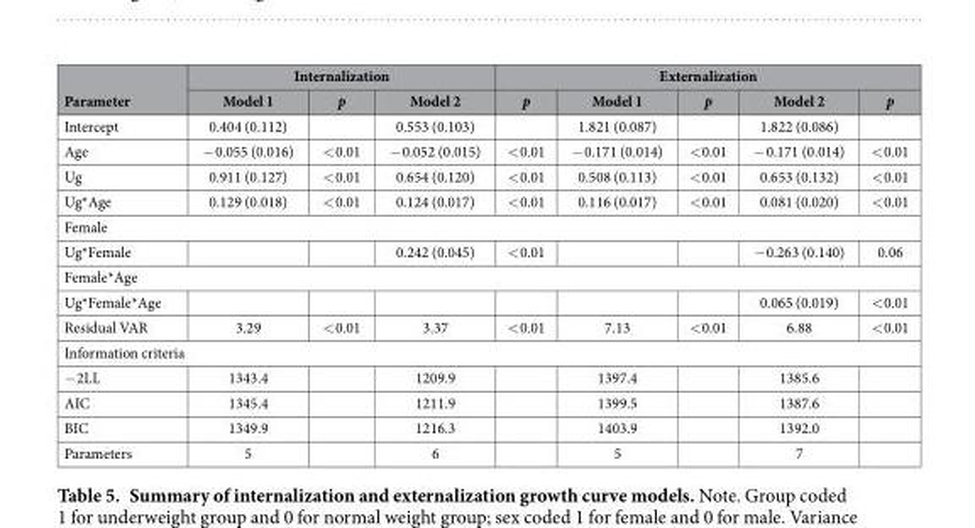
<table><thead><tr><td rowspan="2">Parameter</td><td colspan="3">Internalization</td><td colspan="5">Externalization</td></tr><tr><td>Model 1</td><td>p</td><td>Model 2</td><td>p</td><td>Model 1</td><td>p</td><td>Model 2</td><td>p</td></tr></thead><tbody><tr><td>Intercept</td><td>0.404 (0.112)</td><td></td><td>0.553 (0.103)</td><td></td><td>1.821 (0.087)</td><td></td><td>1.822 (0.086)</td><td></td></tr><tr><td>Age</td><td>− 0.055 (0.016)</td><td>&lt; 0.01</td><td>− 0.052 (0.015)</td><td>&lt; 0.01</td><td>− 0.171 (0.014)</td><td>&lt; 0.01</td><td>− 0.171 (0.014)</td><td>&lt; 0.01</td></tr><tr><td>Ug</td><td>0.911 (0.127)</td><td>&lt; 0.01</td><td>0.654 (0.120)</td><td>&lt; 0.01</td><td>0.508 (0.113)</td><td>&lt; 0.01</td><td>0.653 (0.132)</td><td>&lt; 0.01</td></tr><tr><td>Ug*Age</td><td>0.129 (0.018)</td><td>&lt; 0.01</td><td>0.124 (0.017)</td><td>&lt; 0.01</td><td>0.116 (0.017)</td><td>&lt; 0.01</td><td>0.081 (0.020)</td><td>&lt; 0.01</td></tr><tr><td colspan="9">Female</td></tr><tr><td>Ug*Female</td><td></td><td></td><td>0.242 (0.045)</td><td>&lt; 0.01</td><td></td><td></td><td>− 0.263 (0.140)</td><td>0.06</td></tr><tr><td colspan="9">Female*Age</td></tr><tr><td>Ug*Female*Age</td><td></td><td></td><td></td><td></td><td></td><td></td><td>0.065 (0.019)</td><td>&lt; 0.01</td></tr><tr><td>Residual VAR</td><td>3.29</td><td>&lt; 0.01</td><td>3.37</td><td>&lt; 0.01</td><td>7.13</td><td>&lt; 0.01</td><td>6.88</td><td>&lt; 0.01</td></tr><tr><td colspan="9">Information criteria</td></tr><tr><td>− 2LL</td><td>1343.4</td><td></td><td>1209.9</td><td></td><td>1397.4</td><td></td><td>1385.6</td><td></td></tr><tr><td>AIC</td><td>1345.4</td><td></td><td>1211.9</td><td></td><td>1399.5</td><td></td><td>1387.6</td><td></td></tr><tr><td>BIC</td><td>1349.9</td><td></td><td>1216.3</td><td></td><td>1403.9</td><td></td><td>1392.0</td><td></td></tr><tr><td>Parameters</td><td>5</td><td></td><td>6</td><td></td><td>5</td><td></td><td>7</td><td></td></tr></tbody></table>